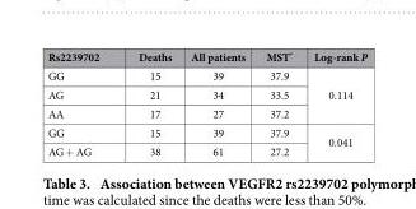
<table><thead><tr><td>Rs2239702</td><td>Deaths</td><td>All patients</td><td>MST*</td><td>Log-rank P</td></tr></thead><tbody><tr><td>GG</td><td>15</td><td>39</td><td>37.9</td><td rowspan="3">0.114</td></tr><tr><td>AG</td><td>21</td><td>34</td><td>33.5</td></tr><tr><td>AA</td><td>17</td><td>27</td><td>37.2</td></tr><tr><td>GG</td><td>15</td><td>39</td><td>37.9</td><td rowspan="2">0.041</td></tr><tr><td>AG + AG</td><td>38</td><td>61</td><td>27.2</td></tr></tbody></table>